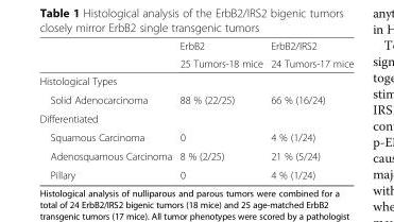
<table><thead><tr><td rowspan="2"></td><td rowspan="2">ErbB2 25 Tumors-18 mice</td><td rowspan="2">ErbB2/IRS2 24 Tumors-17 mice</td></tr><tr></tr></thead><tbody><tr><td colspan="3">Histological Types</td></tr><tr><td>Solid Adenocarcinoma</td><td>88 % (22/25)</td><td>66 % (16/24)</td></tr><tr><td colspan="3">Differentiated</td></tr><tr><td>Squamous Carcinoma</td><td>0</td><td>4 % (1/24)</td></tr><tr><td>Adenosquamous Carcinoma</td><td>8 % (2/25)</td><td>21 % (5/24)</td></tr><tr><td>Pillary</td><td>0</td><td>4 % (1/24)</td></tr></tbody></table>